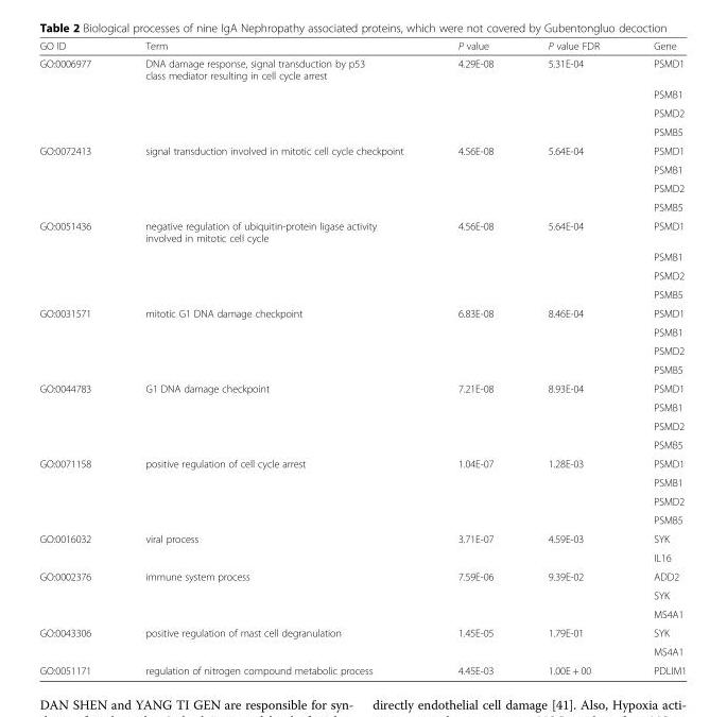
<table><thead><tr><td>GO ID</td><td>Term</td><td>P value</td><td>P value FDR</td><td>Gene</td></tr></thead><tbody><tr><td rowspan="4">GO:0006977</td><td>DNA damage response, signal transduction by p53 class mediator resulting in cell cycle arrest</td><td>4.29E-08</td><td>5.31E-04</td><td>PSMD1</td></tr><tr><td></td><td></td><td></td><td>PSMB1</td></tr><tr><td></td><td></td><td></td><td>PSMD2</td></tr><tr><td></td><td></td><td></td><td>PSMB5</td></tr><tr><td rowspan="4">GO:0072413</td><td>signal transduction involved in mitotic cell cycle checkpoint</td><td>4.56E-08</td><td>5.64E-04</td><td>PSMD1</td></tr><tr><td></td><td></td><td></td><td>PSMB1</td></tr><tr><td></td><td></td><td></td><td>PSMD2</td></tr><tr><td></td><td></td><td></td><td>PSMB5</td></tr><tr><td rowspan="4">GO:0051436</td><td>negative regulation of ubiquitin-protein ligase activity involved in mitotic cell cycle</td><td>4.56E-08</td><td>5.64E-04</td><td>PSMD1</td></tr><tr><td></td><td></td><td></td><td>PSMB1</td></tr><tr><td></td><td></td><td></td><td>PSMD2</td></tr><tr><td></td><td></td><td></td><td>PSMB5</td></tr><tr><td rowspan="4">GO:0031571</td><td>mitotic G1 DNA damage checkpoint</td><td>6.83E-08</td><td>8.46E-04</td><td>PSMD1</td></tr><tr><td></td><td></td><td></td><td>PSMB1</td></tr><tr><td></td><td></td><td></td><td>PSMD2</td></tr><tr><td></td><td></td><td></td><td>PSMB5</td></tr><tr><td rowspan="4">GO:0044783</td><td>G1 DNA damage checkpoint</td><td>7.21E-08</td><td>8.93E-04</td><td>PSMD1</td></tr><tr><td></td><td></td><td></td><td>PSMB1</td></tr><tr><td></td><td></td><td></td><td>PSMD2</td></tr><tr><td></td><td></td><td></td><td>PSMB5</td></tr><tr><td rowspan="4">GO:0071158</td><td>positive regulation of cell cycle arrest</td><td>1.04E-07</td><td>1.28E-03</td><td>PSMD1</td></tr><tr><td></td><td></td><td></td><td>PSMB1</td></tr><tr><td></td><td></td><td></td><td>PSMD2</td></tr><tr><td></td><td></td><td></td><td>PSMB5</td></tr><tr><td rowspan="2">GO:0016032</td><td>viral process</td><td>3.71E-07</td><td>4.59E-03</td><td>SYK</td></tr><tr><td></td><td></td><td></td><td>IL16</td></tr><tr><td rowspan="3">GO:0002376</td><td>immune system process</td><td>7.59E-06</td><td>9.39E-02</td><td>ADD2</td></tr><tr><td></td><td></td><td></td><td>SYK</td></tr><tr><td></td><td></td><td></td><td>MS4A1</td></tr><tr><td rowspan="2">GO:0043306</td><td>positive regulation of mast cell degranulation</td><td>1.45E-05</td><td>1.79E-01</td><td>SYK</td></tr><tr><td></td><td></td><td></td><td>MS4A1</td></tr><tr><td>GO:0051171</td><td>regulation of nitrogen compound metabolic process</td><td>4.45E-03</td><td>1.00E + 00</td><td>PDLIM1</td></tr></tbody></table>